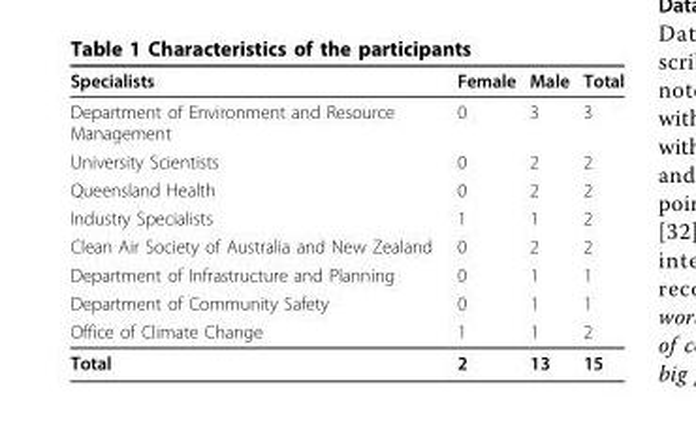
<table><thead><tr><td>Specialists</td><td>Female</td><td>Male</td><td>Total</td></tr></thead><tbody><tr><td>Department of Environment and Resource Management</td><td>0</td><td>3</td><td>3</td></tr><tr><td>University Scientists</td><td>0</td><td>2</td><td>2</td></tr><tr><td>Queensland Health</td><td>0</td><td>2</td><td>2</td></tr><tr><td>Industry Specialists</td><td>1</td><td>1</td><td>2</td></tr><tr><td>Clean Air Society of Australia and New Zealand</td><td>0</td><td>2</td><td>2</td></tr><tr><td>Department of Infrastructure and Planning</td><td>0</td><td>1</td><td>1</td></tr><tr><td>Department of Community Safety</td><td>0</td><td>1</td><td>1</td></tr><tr><td>Office of Climate Change</td><td>1</td><td>1</td><td>2</td></tr><tr><td>Total</td><td>2</td><td>13</td><td>15</td></tr></tbody></table>